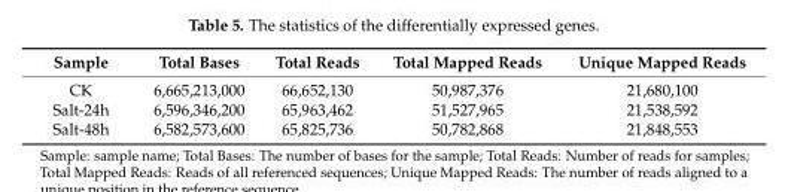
<table><thead><tr><td>Sample</td><td>Total Bases</td><td>Total Reads</td><td>Total Mapped Reads</td><td>Unique Mapped Reads</td></tr></thead><tbody><tr><td>CK</td><td>6,665,213,000</td><td>66,652,130</td><td>50,987,376</td><td>21,680,100</td></tr><tr><td>Salt-24h</td><td>6,596,346,200</td><td>65,963,462</td><td>51,527,965</td><td>21,538,592</td></tr><tr><td>Salt-48h</td><td>6,582,573,600</td><td>65,825,736</td><td>50,782,868</td><td>21,848,553</td></tr></tbody></table>